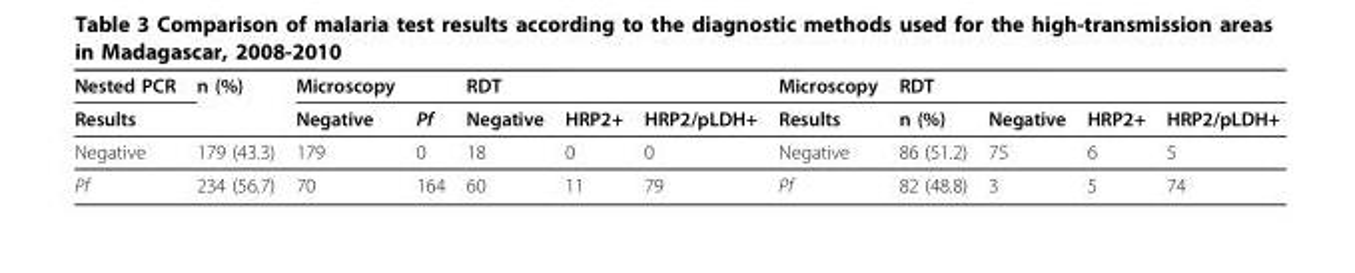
<table><thead><tr><td rowspan="2">Nested PCR Results</td><td rowspan="2">n (%)</td><td rowspan="2">Microscopy Negative</td><td rowspan="2">Pf</td><td rowspan="2">RDT Negative</td><td rowspan="2">HRP2+</td><td rowspan="2">HRP2/pLDH+</td><td rowspan="2">Microscopy Results</td><td rowspan="2">RDT n (%)</td><td rowspan="2">Negative</td><td rowspan="2">HRP2+</td><td rowspan="2">HRP2/pLDH+</td></tr><tr></tr></thead><tbody><tr><td>Negative</td><td>179 (43.3)</td><td>179</td><td>0</td><td>18</td><td>0</td><td>0</td><td>Negative</td><td>86 (51.2)</td><td>75</td><td>6</td><td>5</td></tr><tr><td>Pf</td><td>234 (56.7)</td><td>70</td><td>164</td><td>60</td><td>11</td><td>79</td><td>Pf</td><td>82 (48.8)</td><td>3</td><td>5</td><td>74</td></tr></tbody></table>